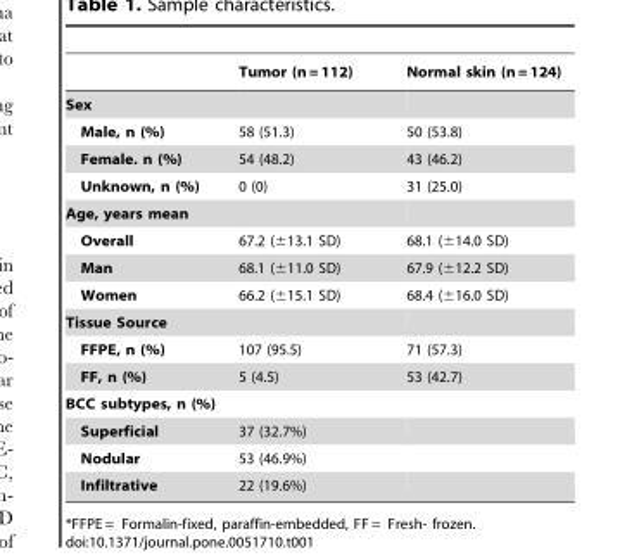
<table><thead><tr><td></td><td>Tumor (n = 112)</td><td>Normal skin (n = 124)</td></tr></thead><tbody><tr><td colspan="3">Sex</td></tr><tr><td>Male, n (%)</td><td>58 (51.3)</td><td>50 (53.8)</td></tr><tr><td>Female. n (%)</td><td>54 (48.2)</td><td>43 (46.2)</td></tr><tr><td>Unknown, n (%)</td><td>0 (0)</td><td>31 (25.0)</td></tr><tr><td colspan="3">Age, years mean</td></tr><tr><td>Overall</td><td>67.2 (±13.1 SD)</td><td>68.1 (±14.0 SD)</td></tr><tr><td>Man</td><td>68.1 (±11.0 SD)</td><td>67.9 (±12.2 SD)</td></tr><tr><td>Women</td><td>66.2 (±15.1 SD)</td><td>68.4 (±16.0 SD)</td></tr><tr><td colspan="3">Tissue Source</td></tr><tr><td>FFPE, n (%)</td><td>107 (95.5)</td><td>71 (57.3)</td></tr><tr><td>FF, n (%)</td><td>5 (4.5)</td><td>53 (42.7)</td></tr><tr><td colspan="3">BCC subtypes, n (%)</td></tr><tr><td>Superficial</td><td>37 (32.7%)</td><td></td></tr><tr><td>Nodular</td><td>53 (46.9%)</td><td></td></tr><tr><td>Infiltrative</td><td>22 (19.6%)</td><td></td></tr></tbody></table>